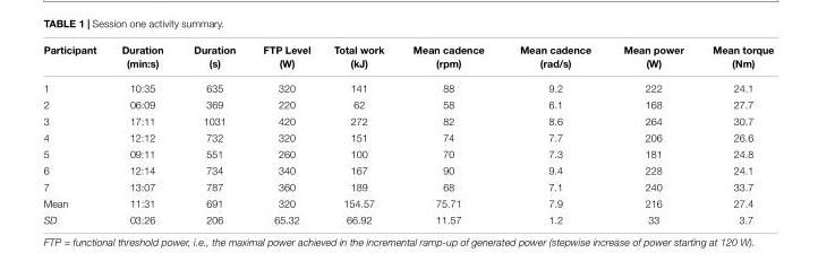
<table><thead><tr><td>Participant</td><td>Duration (min:s)</td><td>Duration (s)</td><td>FTP Level (W)</td><td>Total work (kJ)</td><td>Mean cadence (rpm)</td><td>Mean cadence (rad/s)</td><td>Mean power (W)</td><td>Mean torque (Nm)</td></tr></thead><tbody><tr><td>1</td><td>10:35</td><td>635</td><td>320</td><td>141</td><td>88</td><td>9.2</td><td>222</td><td>24.1</td></tr><tr><td>2</td><td>06:09</td><td>369</td><td>220</td><td>62</td><td>58</td><td>6.1</td><td>168</td><td>27.7</td></tr><tr><td>3</td><td>17:11</td><td>1031</td><td>420</td><td>272</td><td>82</td><td>8.6</td><td>264</td><td>30.7</td></tr><tr><td>4</td><td>12:12</td><td>732</td><td>320</td><td>151</td><td>74</td><td>7.7</td><td>206</td><td>26.6</td></tr><tr><td>5</td><td>09:11</td><td>551</td><td>260</td><td>100</td><td>70</td><td>7.3</td><td>181</td><td>24.8</td></tr><tr><td>6</td><td>12:14</td><td>734</td><td>340</td><td>167</td><td>90</td><td>9.4</td><td>228</td><td>24.1</td></tr><tr><td>7</td><td>13:07</td><td>787</td><td>360</td><td>189</td><td>68</td><td>7.1</td><td>240</td><td>33.7</td></tr><tr><td>Mean</td><td>11:31</td><td>691</td><td>320</td><td>154.57</td><td>75.71</td><td>7.9</td><td>216</td><td>27.4</td></tr><tr><td>SD</td><td>03:26</td><td>206</td><td>65.32</td><td>66.92</td><td>11.57</td><td>1.2</td><td>33</td><td>3.7</td></tr></tbody></table>